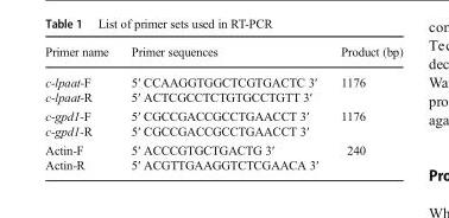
<table><thead><tr><td>Primer name</td><td>Primer sequences</td><td>Product (bp)</td></tr></thead><tbody><tr><td>c-lpaat-F</td><td>5′ CCAAGGTGGCTCGTGACTC 3′</td><td rowspan="2">1176</td></tr><tr><td>c-lpaat-R</td><td>5′ ACTCGCCTCTGTGCCTGTT 3′</td></tr><tr><td>c-gpd1-F</td><td>5′ CGCCGACCGCCTGAACCT 3′</td><td rowspan="2">1176</td></tr><tr><td>c-gpd1-R</td><td>5′ CGCCGACCGCCTGAACCT 3′</td></tr><tr><td>Actin-F</td><td>5′ ACCCGTGCTGACTG 3′</td><td rowspan="2">240</td></tr><tr><td>Actin-R</td><td>5′ ACGTTGAAGGTCTCGAACA 3′</td></tr></tbody></table>